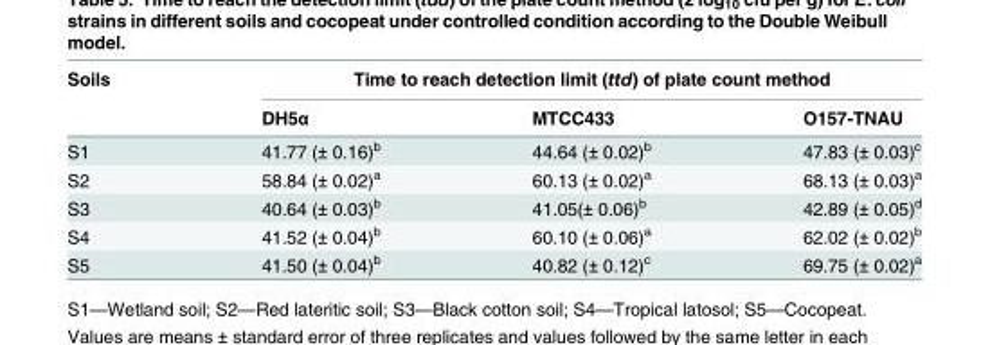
<table><thead><tr><td rowspan="2">Soils</td><td colspan="3">Time to reach detection limit (ttd) of plate count method</td></tr><tr><td>DH5α</td><td>MTCC433</td><td>O157-TNAU</td></tr></thead><tbody><tr><td>S1</td><td>41.77 (± 0.16)<sup>b</sup></td><td>44.64 (± 0.02)<sup>b</sup></td><td>47.83 (± 0.03)<sup>c</sup></td></tr><tr><td>S2</td><td>58.84 (± 0.02)<sup>a</sup></td><td>60.13 (± 0.02)<sup>a</sup></td><td>68.13 (± 0.03)<sup>a</sup></td></tr><tr><td>S3</td><td>40.64 (± 0.03)<sup>b</sup></td><td>41.05(± 0.06)<sup>b</sup></td><td>42.89 (± 0.05)<sup>d</sup></td></tr><tr><td>S4</td><td>41.52 (± 0.04)<sup>b</sup></td><td>60.10 (± 0.06)<sup>a</sup></td><td>62.02 (± 0.02)<sup>b</sup></td></tr><tr><td>S5</td><td>41.50 (± 0.04)<sup>b</sup></td><td>40.82 (± 0.12)<sup>c</sup></td><td>69.75 (± 0.02)<sup>a</sup></td></tr></tbody></table>